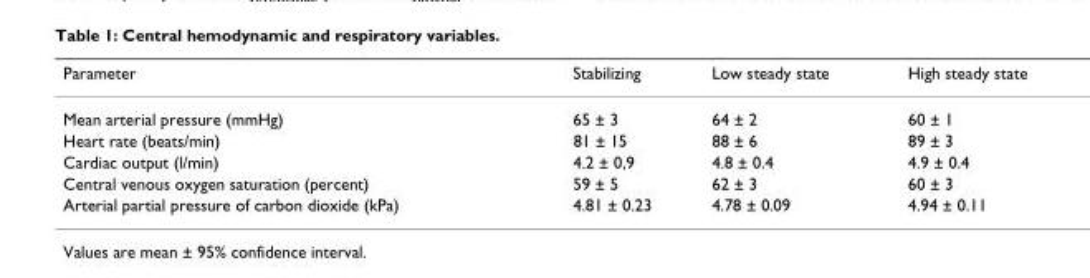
<table><thead><tr><td>Parameter</td><td>Stabilizing</td><td>Low steady state</td><td>High steady state</td></tr></thead><tbody><tr><td>Mean arterial pressure (mmHg)</td><td>65 ± 3</td><td>64 ± 2</td><td>60 ± 1</td></tr><tr><td>Heart rate (beats/min)</td><td>81 ± 15</td><td>88 ± 6</td><td>89 ± 3</td></tr><tr><td>Cardiac output (l/min)</td><td>4.2 ± 0,9</td><td>4.8 ± 0.4</td><td>4.9 ± 0.4</td></tr><tr><td>Central venous oxygen saturation (percent)</td><td>59 ± 5</td><td>62 ± 3</td><td>60 ± 3</td></tr><tr><td>Arterial partial pressure of carbon dioxide (kPa)</td><td>4.81 ± 0.23</td><td>4.78 ± 0.09</td><td>4.94 ± 0.11</td></tr></tbody></table>